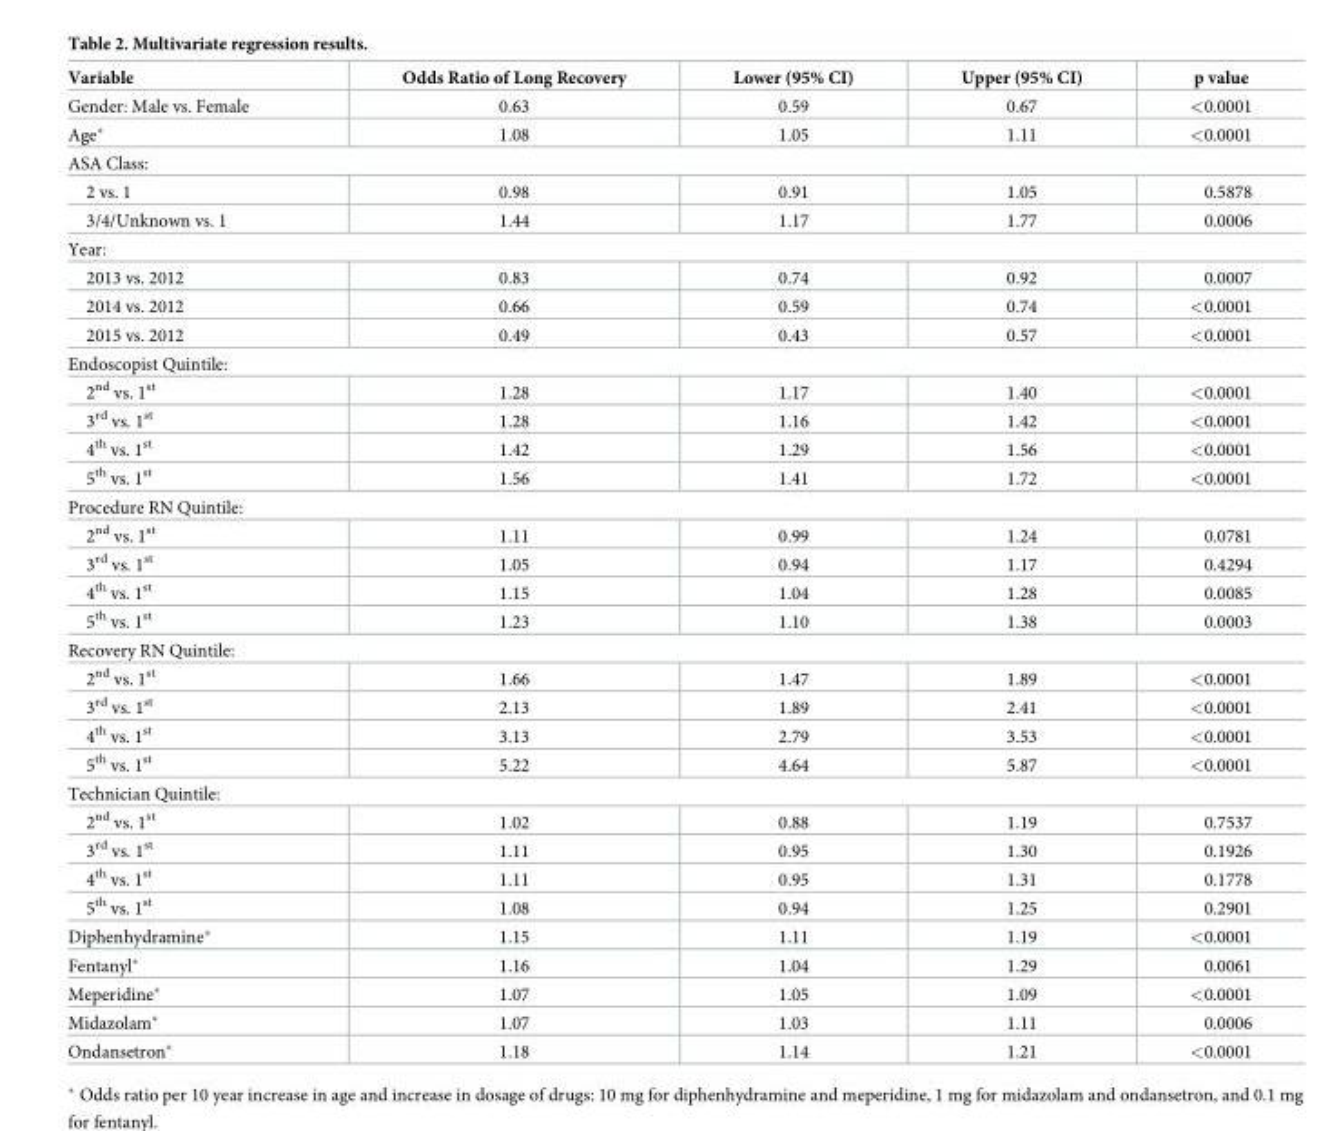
<table><thead><tr><td>Variable</td><td>Odds Ratio of Long Recovery</td><td>Lower (95% CI)</td><td>Upper (95% CI)</td><td>p value</td></tr></thead><tbody><tr><td>Gender: Male vs. Female</td><td>0.63</td><td>0.59</td><td>0.67</td><td>&lt;0.0001</td></tr><tr><td>Age*</td><td>1.08</td><td>1.05</td><td>1.11</td><td>&lt;0.0001</td></tr><tr><td colspan="5">ASA Class:</td></tr><tr><td>2 vs. 1</td><td>0.98</td><td>0.91</td><td>1.05</td><td>0.5878</td></tr><tr><td>3/4/Unknown vs. 1</td><td>1.44</td><td>1.17</td><td>1.77</td><td>0.0006</td></tr><tr><td colspan="5">Year:</td></tr><tr><td>2013 vs. 2012</td><td>0.83</td><td>0.74</td><td>0.92</td><td>0.0007</td></tr><tr><td>2014 vs. 2012</td><td>0.66</td><td>0.59</td><td>0.74</td><td>&lt;0.0001</td></tr><tr><td>2015 vs. 2012</td><td>0.49</td><td>0.43</td><td>0.57</td><td>&lt;0.0001</td></tr><tr><td colspan="5">Endoscopist Quintile:</td></tr><tr><td>2<sup>nd</sup> vs. 1<sup>st</sup></td><td>1.28</td><td>1.17</td><td>1.40</td><td>&lt;0.0001</td></tr><tr><td>3<sup>rd</sup> vs. 1<sup>st</sup></td><td>1.28</td><td>1.16</td><td>1.42</td><td>&lt;0.0001</td></tr><tr><td>4<sup>th</sup> vs. 1<sup>st</sup></td><td>1.42</td><td>1.29</td><td>1.56</td><td>&lt;0.0001</td></tr><tr><td>5<sup>th</sup> vs. 1<sup>st</sup></td><td>1.56</td><td>1.41</td><td>1.72</td><td>&lt;0.0001</td></tr><tr><td colspan="5">Procedure RN Quintile:</td></tr><tr><td>2<sup>nd</sup> vs. 1<sup>st</sup></td><td>1.11</td><td>0.99</td><td>1.24</td><td>0.0781</td></tr><tr><td>3<sup>rd</sup> vs. 1<sup>st</sup></td><td>1.05</td><td>0.94</td><td>1.17</td><td>0.4294</td></tr><tr><td>4<sup>th</sup> vs. 1<sup>st</sup></td><td>1.15</td><td>1.04</td><td>1.28</td><td>0.0085</td></tr><tr><td>5<sup>th</sup> vs. 1<sup>st</sup></td><td>1.23</td><td>1.10</td><td>1.38</td><td>0.0003</td></tr><tr><td colspan="5">Recovery RN Quintile:</td></tr><tr><td>2<sup>nd</sup> vs. 1<sup>st</sup></td><td>1.66</td><td>1.47</td><td>1.89</td><td>&lt;0.0001</td></tr><tr><td>3<sup>rd</sup> vs. 1<sup>st</sup></td><td>2.13</td><td>1.89</td><td>2.41</td><td>&lt;0.0001</td></tr><tr><td>4<sup>th</sup> vs. 1<sup>st</sup></td><td>3.13</td><td>2.79</td><td>3.53</td><td>&lt;0.0001</td></tr><tr><td>5<sup>th</sup> vs. 1<sup>st</sup></td><td>5.22</td><td>4.64</td><td>5.87</td><td>&lt;0.0001</td></tr><tr><td colspan="5">Technician Quintile:</td></tr><tr><td>2<sup>nd</sup> vs. 1<sup>st</sup></td><td>1.02</td><td>0.88</td><td>1.19</td><td>0.7537</td></tr><tr><td>3<sup>rd</sup> vs. 1<sup>st</sup></td><td>1.11</td><td>0.95</td><td>1.30</td><td>0.1926</td></tr><tr><td>4<sup>th</sup> vs. 1<sup>st</sup></td><td>1.11</td><td>0.95</td><td>1.31</td><td>0.1778</td></tr><tr><td>5<sup>th</sup> vs. 1<sup>st</sup></td><td>1.08</td><td>0.94</td><td>1.25</td><td>0.2901</td></tr><tr><td>Diphenhydramine*</td><td>1.15</td><td>1.11</td><td>1.19</td><td>&lt;0.0001</td></tr><tr><td>Fentanyl*</td><td>1.16</td><td>1.04</td><td>1.29</td><td>0.0061</td></tr><tr><td>Meperidine*</td><td>1.07</td><td>1.05</td><td>1.09</td><td>&lt;0.0001</td></tr><tr><td>Midazolam*</td><td>1.07</td><td>1.03</td><td>1.11</td><td>0.0006</td></tr><tr><td>Ondansetron*</td><td>1.18</td><td>1.14</td><td>1.21</td><td>&lt;0.0001</td></tr></tbody></table>